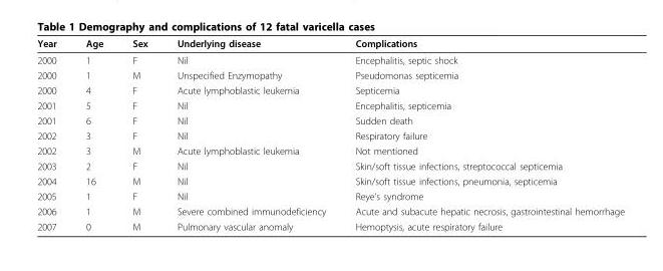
<table><thead><tr><td>Year</td><td>Age</td><td>Sex</td><td>Underlying disease</td><td>Complications</td></tr></thead><tbody><tr><td>2000</td><td>1</td><td>F</td><td>Nil</td><td>Encephalitis, septic shock</td></tr><tr><td>2000</td><td>1</td><td>M</td><td>Unspecified Enzymopathy</td><td>Pseudomonas septicemia</td></tr><tr><td>2000</td><td>4</td><td>F</td><td>Acute lymphoblastic leukemia</td><td>Septicemia</td></tr><tr><td>2001</td><td>5</td><td>F</td><td>Nil</td><td>Encephalitis, septicemia</td></tr><tr><td>2001</td><td>6</td><td>F</td><td>Nil</td><td>Sudden death</td></tr><tr><td>2002</td><td>3</td><td>F</td><td>Nil</td><td>Respiratory failure</td></tr><tr><td>2002</td><td>3</td><td>M</td><td>Acute lymphoblastic leukemia</td><td>Not mentioned</td></tr><tr><td>2003</td><td>2</td><td>F</td><td>Nil</td><td>Skin/soft tissue infections, streptococcal septicemia</td></tr><tr><td>2004</td><td>16</td><td>M</td><td>Nil</td><td>Skin/soft tissue infections, pneumonia, septicemia</td></tr><tr><td>2005</td><td>1</td><td>F</td><td>Nil</td><td>Reye’s syndrome</td></tr><tr><td>2006</td><td>1</td><td>M</td><td>Severe combined immunodeficiency</td><td>Acute and subacute hepatic necrosis, gastrointestinal hemorrhage</td></tr><tr><td>2007</td><td>0</td><td>M</td><td>Pulmonary vascular anomaly</td><td>Hemoptysis, acute respiratory failure</td></tr></tbody></table>